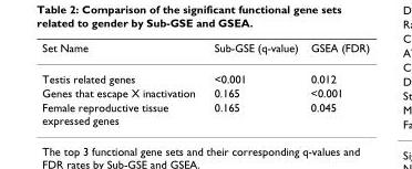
<table><thead><tr><td>Set Name</td><td>Sub-GSE (q-value)</td><td>GSEA (FDR)</td></tr></thead><tbody><tr><td>Testis related genes</td><td>&lt;0.001</td><td>0.012</td></tr><tr><td>Genes that escape X inactivation</td><td>0.165</td><td>&lt;0.001</td></tr><tr><td>Female reproductive tissue expressed genes</td><td>0.165</td><td>0.045</td></tr></tbody></table>